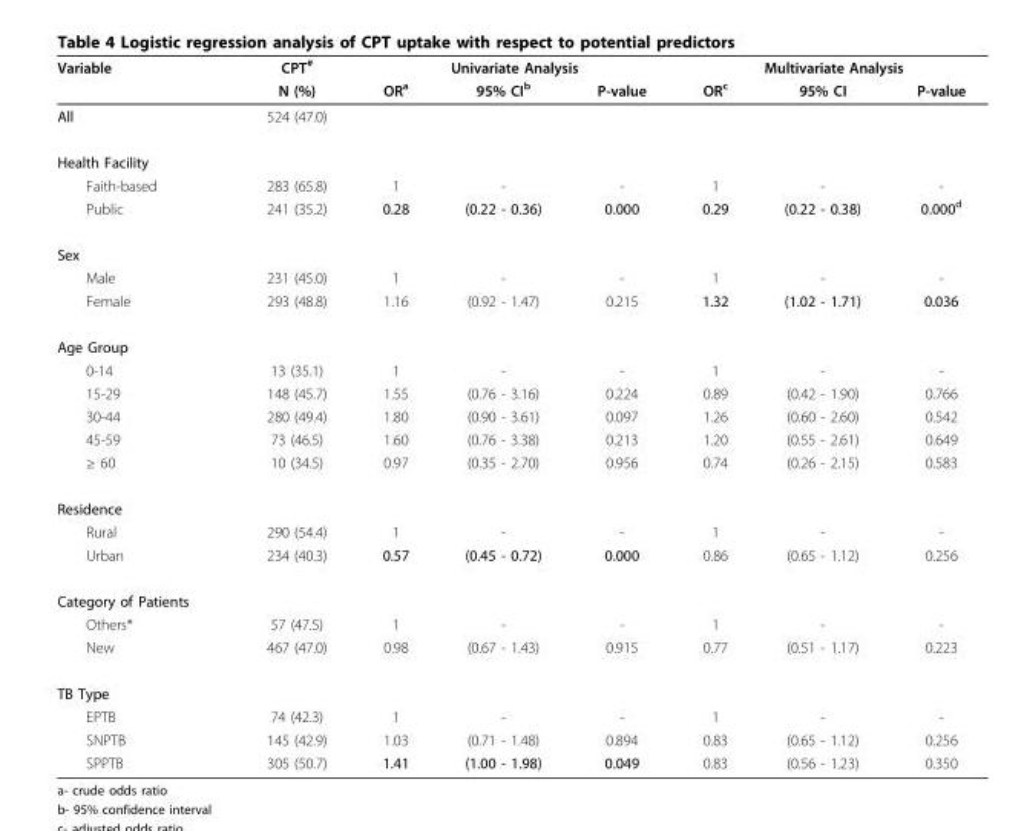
<table><thead><tr><td rowspan="2">Variable</td><td rowspan="2">CPT<sup>#</sup> N (%)</td><td colspan="3">Univariate Analysis</td><td colspan="3">Multivariate Analysis</td></tr><tr><td>OR<sup>a</sup></td><td>95% CI<sup>b</sup></td><td>P-value</td><td>OR<sup>c</sup></td><td>95% CI</td><td>P-value</td></tr></thead><tbody><tr><td>All</td><td>524 (47.0)</td><td></td><td></td><td></td><td></td><td></td><td></td></tr><tr><td colspan="8">Health Facility</td></tr><tr><td>Faith-based</td><td>283 (65.8)</td><td>1</td><td>-</td><td>-</td><td>1</td><td>-</td><td>-</td></tr><tr><td>Public</td><td>241 (35.2)</td><td>0.28</td><td>(0.22 - 0.36)</td><td>0.000</td><td>0.29</td><td>(0.22 - 0.38)</td><td>0.000<sup>d</sup></td></tr><tr><td colspan="8">Sex</td></tr><tr><td>Male</td><td>231 (45.0)</td><td>1</td><td>-</td><td>-</td><td>1</td><td>-</td><td>-</td></tr><tr><td>Female</td><td>293 (48.8)</td><td>1.16</td><td>(0.92 - 1.47)</td><td>0.215</td><td>1.32</td><td>(1.02 - 1.71)</td><td>0.036</td></tr><tr><td colspan="8">Age Group</td></tr><tr><td>0-14</td><td>13 (35.1)</td><td>1</td><td>-</td><td>-</td><td>1</td><td>-</td><td>-</td></tr><tr><td>15-29</td><td>148 (45.7)</td><td>1.55</td><td>(0.76 - 3.16)</td><td>0.224</td><td>0.89</td><td>(0.42 - 1.90)</td><td>0.766</td></tr><tr><td>30-44</td><td>280 (49.4)</td><td>1.80</td><td>(0.90 - 3.61)</td><td>0.097</td><td>1.26</td><td>(0.60 - 2.60)</td><td>0.542</td></tr><tr><td>45-59</td><td>73 (46.5)</td><td>1.60</td><td>(0.76 - 3.38)</td><td>0.213</td><td>1.20</td><td>(0.55 - 2.61)</td><td>0.649</td></tr><tr><td>≥ 60</td><td>10 (34.5)</td><td>0.97</td><td>(0.35 - 2.70)</td><td>0.956</td><td>0.74</td><td>(0.26 - 2.15)</td><td>0.583</td></tr><tr><td colspan="8">Residence</td></tr><tr><td>Rural</td><td>290 (54.4)</td><td>1</td><td>-</td><td>-</td><td>1</td><td>-</td><td>-</td></tr><tr><td>Urban</td><td>234 (40.3)</td><td>0.57</td><td>(0.45 - 0.72)</td><td>0.000</td><td>0.86</td><td>(0.65 - 1.12)</td><td>0.256</td></tr><tr><td colspan="8">Category of Patients</td></tr><tr><td>Others*</td><td>57 (47.5)</td><td>1</td><td>-</td><td>-</td><td>1</td><td>-</td><td>-</td></tr><tr><td>New</td><td>467 (47.0)</td><td>0.98</td><td>(0.67 - 1.43)</td><td>0.915</td><td>0.77</td><td>(0.51 - 1.17)</td><td>0.223</td></tr><tr><td colspan="8">TB Type</td></tr><tr><td>EPTB</td><td>74 (42.3)</td><td>1</td><td>-</td><td>-</td><td>1</td><td>-</td><td>-</td></tr><tr><td>SNPTB</td><td>145 (42.9)</td><td>1.03</td><td>(0.71 - 1.48)</td><td>0.894</td><td>0.83</td><td>(0.65 - 1.12)</td><td>0.256</td></tr><tr><td>SPPTB</td><td>305 (50.7)</td><td>1.41</td><td>(1.00 - 1.98)</td><td>0.049</td><td>0.83</td><td>(0.56 - 1.23)</td><td>0.350</td></tr></tbody></table>